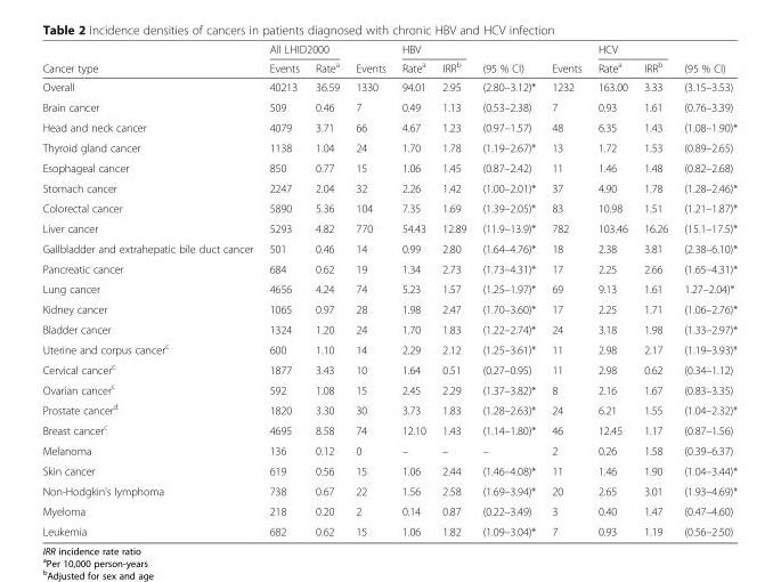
<table><thead><tr><td rowspan="2">Cancer type</td><td colspan="2">All LHID2000</td><td rowspan="2">Events</td><td colspan="2">HBV</td><td rowspan="2">(95 % CI)</td><td rowspan="2">Events</td><td colspan="2">HCV</td><td rowspan="2">(95 % CI)</td></tr><tr><td>Events</td><td>Rate<sup>a</sup></td><td>Rate<sup>a</sup></td><td>IRR<sup>b</sup></td><td>Rate<sup>a</sup></td><td>IRR<sup>b</sup></td></tr></thead><tbody><tr><td>Overall</td><td>40213</td><td>36.59</td><td>1330</td><td>94.01</td><td>2.95</td><td>(2.80–3.12)*</td><td>1232</td><td>163.00</td><td>3.33</td><td>(3.15–3.53)</td></tr><tr><td>Brain cancer</td><td>509</td><td>0.46</td><td>7</td><td>0.49</td><td>1.13</td><td>(0.53–2.38)</td><td>7</td><td>0.93</td><td>1.61</td><td>(0.76–3.39)</td></tr><tr><td>Head and neck cancer</td><td>4079</td><td>3.71</td><td>66</td><td>4.67</td><td>1.23</td><td>(0.97–1.57)</td><td>48</td><td>6.35</td><td>1.43</td><td>(1.08–1.90)*</td></tr><tr><td>Thyroid gland cancer</td><td>1138</td><td>1.04</td><td>24</td><td>1.70</td><td>1.78</td><td>(1.19–2.67)*</td><td>13</td><td>1.72</td><td>1.53</td><td>(0.89–2.65)</td></tr><tr><td>Esophageal cancer</td><td>850</td><td>0.77</td><td>15</td><td>1.06</td><td>1.45</td><td>(0.87–2.42)</td><td>11</td><td>1.46</td><td>1.48</td><td>(0.82–2.68)</td></tr><tr><td>Stomach cancer</td><td>2247</td><td>2.04</td><td>32</td><td>2.26</td><td>1.42</td><td>(1.00–2.01)*</td><td>37</td><td>4.90</td><td>1.78</td><td>(1.28–2.46)*</td></tr><tr><td>Colorectal cancer</td><td>5890</td><td>5.36</td><td>104</td><td>7.35</td><td>1.69</td><td>(1.39–2.05)*</td><td>83</td><td>10.98</td><td>1.51</td><td>(1.21–1.87)*</td></tr><tr><td>Liver cancer</td><td>5293</td><td>4.82</td><td>770</td><td>54.43</td><td>12.89</td><td>(11.9–13.9)*</td><td>782</td><td>103.46</td><td>16.26</td><td>(15.1–17.5)*</td></tr><tr><td>Gallbladder and extrahepatic bile duct cancer</td><td>501</td><td>0.46</td><td>14</td><td>0.99</td><td>2.80</td><td>(1.64–4.76)*</td><td>18</td><td>2.38</td><td>3.81</td><td>(2.38–6.10)*</td></tr><tr><td>Pancreatic cancer</td><td>684</td><td>0.62</td><td>19</td><td>1.34</td><td>2.73</td><td>(1.73–4.31)*</td><td>17</td><td>2.25</td><td>2.66</td><td>(1.65–4.31)*</td></tr><tr><td>Lung cancer</td><td>4656</td><td>4.24</td><td>74</td><td>5.23</td><td>1.57</td><td>(1.25–1.97)*</td><td>69</td><td>9.13</td><td>1.61</td><td>1.27–2.04)*</td></tr><tr><td>Kidney cancer</td><td>1065</td><td>0.97</td><td>28</td><td>1.98</td><td>2.47</td><td>(1.70–3.60)*</td><td>17</td><td>2.25</td><td>1.71</td><td>(1.06–2.76)*</td></tr><tr><td>Bladder cancer</td><td>1324</td><td>1.20</td><td>24</td><td>1.70</td><td>1.83</td><td>(1.22–2.74)*</td><td>24</td><td>3.18</td><td>1.98</td><td>(1.33–2.97)*</td></tr><tr><td>Uterine and corpus cancer<sup>c</sup></td><td>600</td><td>1.10</td><td>14</td><td>2.29</td><td>2.12</td><td>(1.25–3.61)*</td><td>11</td><td>2.98</td><td>2.17</td><td>(1.19–3.93)*</td></tr><tr><td>Cervical cancer<sup>c</sup></td><td>1877</td><td>3.43</td><td>10</td><td>1.64</td><td>0.51</td><td>(0.27–0.95)</td><td>11</td><td>2.98</td><td>0.62</td><td>(0.34–1.12)</td></tr><tr><td>Ovarian cancer<sup>c</sup></td><td>592</td><td>1.08</td><td>15</td><td>2.45</td><td>2.29</td><td>(1.37–3.82)*</td><td>8</td><td>2.16</td><td>1.67</td><td>(0.83–3.35)</td></tr><tr><td>Prostate cancer<sup>d</sup></td><td>1820</td><td>3.30</td><td>30</td><td>3.73</td><td>1.83</td><td>(1.28–2.63)*</td><td>24</td><td>6.21</td><td>1.55</td><td>(1.04–2.32)*</td></tr><tr><td>Breast cancer<sup>c</sup></td><td>4695</td><td>8.58</td><td>74</td><td>12.10</td><td>1.43</td><td>(1.14–1.80)*</td><td>46</td><td>12.45</td><td>1.17</td><td>(0.87–1.56)</td></tr><tr><td>Melanoma</td><td>136</td><td>0.12</td><td>0</td><td>–</td><td>–</td><td>–</td><td>2</td><td>0.26</td><td>1.58</td><td>(0.39–6.37)</td></tr><tr><td>Skin cancer</td><td>619</td><td>0.56</td><td>15</td><td>1.06</td><td>2.44</td><td>(1.46–4.08)*</td><td>11</td><td>1.46</td><td>1.90</td><td>(1.04–3.44)*</td></tr><tr><td>Non-Hodgkin’s lymphoma</td><td>738</td><td>0.67</td><td>22</td><td>1.56</td><td>2.58</td><td>(1.69–3.94)*</td><td>20</td><td>2.65</td><td>3.01</td><td>(1.93–4.69)*</td></tr><tr><td>Myeloma</td><td>218</td><td>0.20</td><td>2</td><td>0.14</td><td>0.87</td><td>(0.22–3.49)</td><td>3</td><td>0.40</td><td>1.47</td><td>(0.47–4.60)</td></tr><tr><td>Leukemia</td><td>682</td><td>0.62</td><td>15</td><td>1.06</td><td>1.82</td><td>(1.09–3.04)*</td><td>7</td><td>0.93</td><td>1.19</td><td>(0.56–2.50)</td></tr></tbody></table>